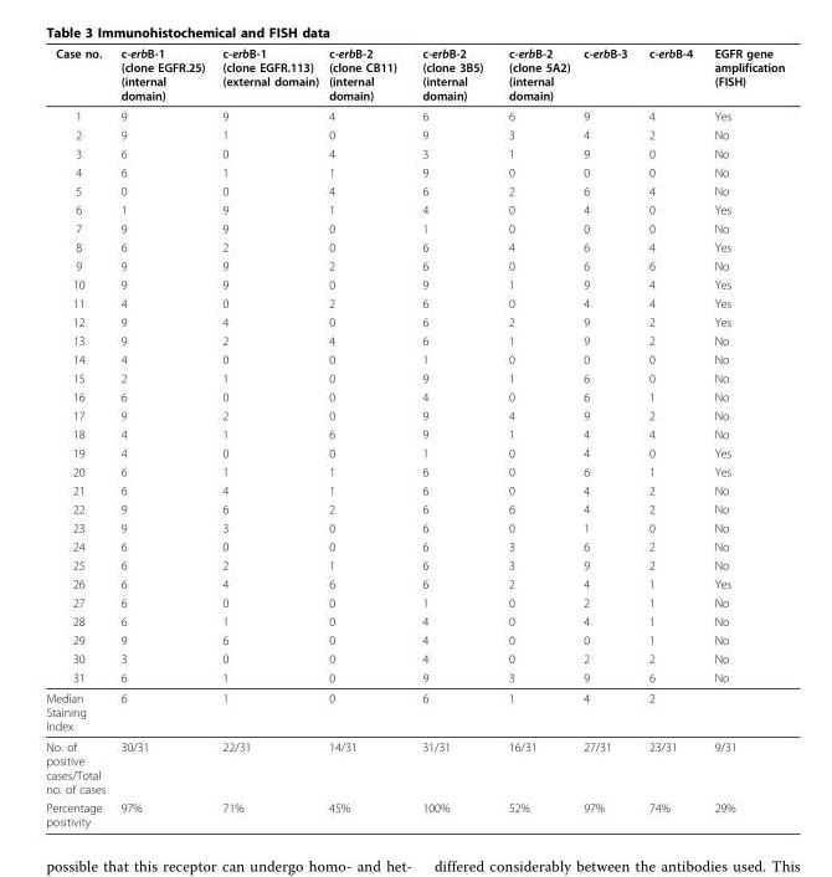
<table><thead><tr><td>Case no.</td><td>c-erbB-1 (clone EGFR.25) (internal domain)</td><td>c-erbB-1 (clone EGFR.113) (external domain)</td><td>c-erbB-2 (clone CB11) (internal domain)</td><td>c-erbB-2 (clone 3B5) (internal domain)</td><td>c-erbB-2 (clone 5A2) (internal domain)</td><td>c-erbB-3</td><td>c-erbB-4</td><td>EGFR gene amplification (FISH)</td></tr></thead><tbody><tr><td>1</td><td>9</td><td>9</td><td>4</td><td>6</td><td>6</td><td>9</td><td>4</td><td>Yes</td></tr><tr><td>2</td><td>9</td><td>1</td><td>0</td><td>9</td><td>3</td><td>4</td><td>2</td><td>No</td></tr><tr><td>3</td><td>6</td><td>0</td><td>4</td><td>3</td><td>1</td><td>9</td><td>0</td><td>No</td></tr><tr><td>4</td><td>6</td><td>1</td><td>1</td><td>9</td><td>0</td><td>0</td><td>0</td><td>No</td></tr><tr><td>5</td><td>0</td><td>0</td><td>4</td><td>6</td><td>2</td><td>6</td><td>4</td><td>No</td></tr><tr><td>6</td><td>1</td><td>9</td><td>1</td><td>4</td><td>0</td><td>4</td><td>0</td><td>Yes</td></tr><tr><td>7</td><td>9</td><td>9</td><td>0</td><td>1</td><td>0</td><td>0</td><td>0</td><td>No</td></tr><tr><td>8</td><td>6</td><td>2</td><td>0</td><td>6</td><td>4</td><td>6</td><td>4</td><td>Yes</td></tr><tr><td>9</td><td>9</td><td>9</td><td>2</td><td>6</td><td>0</td><td>6</td><td>6</td><td>No</td></tr><tr><td>10</td><td>9</td><td>9</td><td>0</td><td>9</td><td>1</td><td>9</td><td>4</td><td>Yes</td></tr><tr><td>11</td><td>4</td><td>0</td><td>2</td><td>6</td><td>0</td><td>4</td><td>4</td><td>Yes</td></tr><tr><td>12</td><td>9</td><td>4</td><td>0</td><td>6</td><td>2</td><td>9</td><td>2</td><td>Yes</td></tr><tr><td>13</td><td>9</td><td>2</td><td>4</td><td>6</td><td>1</td><td>9</td><td>2</td><td>No</td></tr><tr><td>14</td><td>4</td><td>0</td><td>0</td><td>1</td><td>0</td><td>0</td><td>0</td><td>No</td></tr><tr><td>15</td><td>2</td><td>1</td><td>0</td><td>9</td><td>1</td><td>6</td><td>0</td><td>No</td></tr><tr><td>16</td><td>6</td><td>0</td><td>0</td><td>4</td><td>0</td><td>6</td><td>1</td><td>No</td></tr><tr><td>17</td><td>9</td><td>2</td><td>0</td><td>9</td><td>4</td><td>9</td><td>2</td><td>No</td></tr><tr><td>18</td><td>4</td><td>1</td><td>6</td><td>9</td><td>1</td><td>4</td><td>4</td><td>No</td></tr><tr><td>19</td><td>4</td><td>0</td><td>0</td><td>1</td><td>0</td><td>4</td><td>0</td><td>Yes</td></tr><tr><td>20</td><td>6</td><td>1</td><td>1</td><td>6</td><td>0</td><td>6</td><td>1</td><td>Yes</td></tr><tr><td>21</td><td>6</td><td>4</td><td>1</td><td>6</td><td>0</td><td>4</td><td>2</td><td>No</td></tr><tr><td>22</td><td>9</td><td>6</td><td>2</td><td>6</td><td>6</td><td>4</td><td>2</td><td>No</td></tr><tr><td>23</td><td>9</td><td>3</td><td>0</td><td>6</td><td>0</td><td>1</td><td>0</td><td>No</td></tr><tr><td>24</td><td>6</td><td>0</td><td>0</td><td>6</td><td>3</td><td>6</td><td>2</td><td>No</td></tr><tr><td>25</td><td>6</td><td>2</td><td>1</td><td>6</td><td>3</td><td>9</td><td>2</td><td>No</td></tr><tr><td>26</td><td>6</td><td>4</td><td>6</td><td>6</td><td>2</td><td>4</td><td>1</td><td>Yes</td></tr><tr><td>27</td><td>6</td><td>0</td><td>0</td><td>1</td><td>0</td><td>2</td><td>1</td><td>No</td></tr><tr><td>28</td><td>6</td><td>1</td><td>0</td><td>4</td><td>0</td><td>4</td><td>1</td><td>No</td></tr><tr><td>29</td><td>9</td><td>6</td><td>0</td><td>4</td><td>0</td><td>0</td><td>1</td><td>No</td></tr><tr><td>30</td><td>3</td><td>0</td><td>0</td><td>4</td><td>0</td><td>2</td><td>2</td><td>No</td></tr><tr><td>31</td><td>6</td><td>1</td><td>0</td><td>9</td><td>3</td><td>9</td><td>6</td><td>No</td></tr><tr><td>Median Staining Index</td><td>6</td><td>1</td><td>0</td><td>6</td><td>1</td><td>4</td><td>2</td><td></td></tr><tr><td>No. of positive cases/Total no. of cases</td><td>30/31</td><td>22/31</td><td>14/31</td><td>31/31</td><td>16/31</td><td>27/31</td><td>23/31</td><td>9/31</td></tr><tr><td>Percentage positivity</td><td>97%</td><td>71%</td><td>45%</td><td>100%</td><td>52%</td><td>97%</td><td>74%</td><td>29%</td></tr></tbody></table>